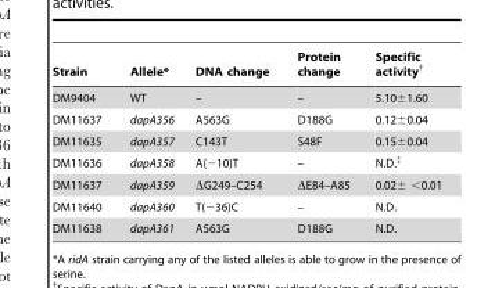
<table><thead><tr><td>Strain</td><td>Allele*</td><td>DNA change</td><td>Protein change</td><td>Specific activity†</td></tr></thead><tbody><tr><td>DM9404</td><td>WT</td><td>–</td><td>–</td><td>5.10±1.60</td></tr><tr><td>DM11637</td><td>dapA356</td><td>A563G</td><td>D188G</td><td>0.12±0.04</td></tr><tr><td>DM11635</td><td>dapA357</td><td>C143T</td><td>S48F</td><td>0.15±0.04</td></tr><tr><td>DM11636</td><td>dapA358</td><td>A(−10)T</td><td>–</td><td>N.D.‡</td></tr><tr><td>DM11637</td><td>dapA359</td><td>ΔG249–C254</td><td>ΔE84–A85</td><td>0.02± &lt;0.01</td></tr><tr><td>DM11640</td><td>dapA360</td><td>T(−36)C</td><td>–</td><td>N.D.</td></tr><tr><td>DM11638</td><td>dapA361</td><td>A563G</td><td>D188G</td><td>N.D.</td></tr></tbody></table>